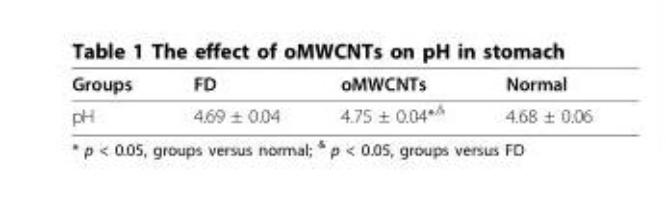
<table><thead><tr><td>Groups</td><td>FD</td><td>oMWCNTs</td><td>Normal</td></tr></thead><tbody><tr><td>pH</td><td>4.69 ± 0.04</td><td>4.75 ± 0.04*<sup>,&amp;</sup></td><td>4.68 ± 0.06</td></tr></tbody></table>